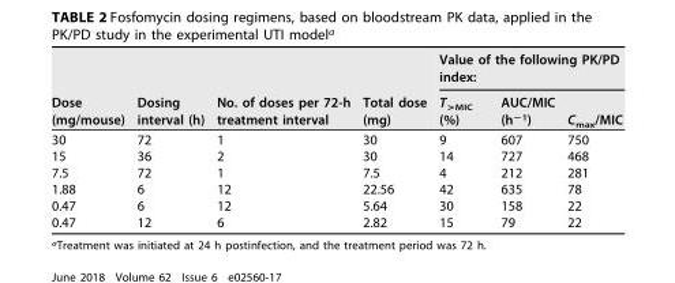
<table><thead><tr><td rowspan="2">Dose (mg/mouse)</td><td rowspan="2">Dosing interval (h)</td><td rowspan="2">No. of doses per 72-h treatment interval</td><td rowspan="2">Total dose (mg)</td><td colspan="3">Value of the following PK/PD index:</td></tr><tr><td>T<sub>&gt;MIC</sub> (%)</td><td>AUC/MIC (h<sup>−1</sup>)</td><td>C<sub>max</sub>/MIC</td></tr></thead><tbody><tr><td>30</td><td>72</td><td>1</td><td>30</td><td>9</td><td>607</td><td>750</td></tr><tr><td>15</td><td>36</td><td>2</td><td>30</td><td>14</td><td>727</td><td>468</td></tr><tr><td>7.5</td><td>72</td><td>1</td><td>7.5</td><td>4</td><td>212</td><td>281</td></tr><tr><td>1.88</td><td>6</td><td>12</td><td>22.56</td><td>42</td><td>635</td><td>78</td></tr><tr><td>0.47</td><td>6</td><td>12</td><td>5.64</td><td>30</td><td>158</td><td>22</td></tr><tr><td>0.47</td><td>12</td><td>6</td><td>2.82</td><td>15</td><td>79</td><td>22</td></tr></tbody></table>